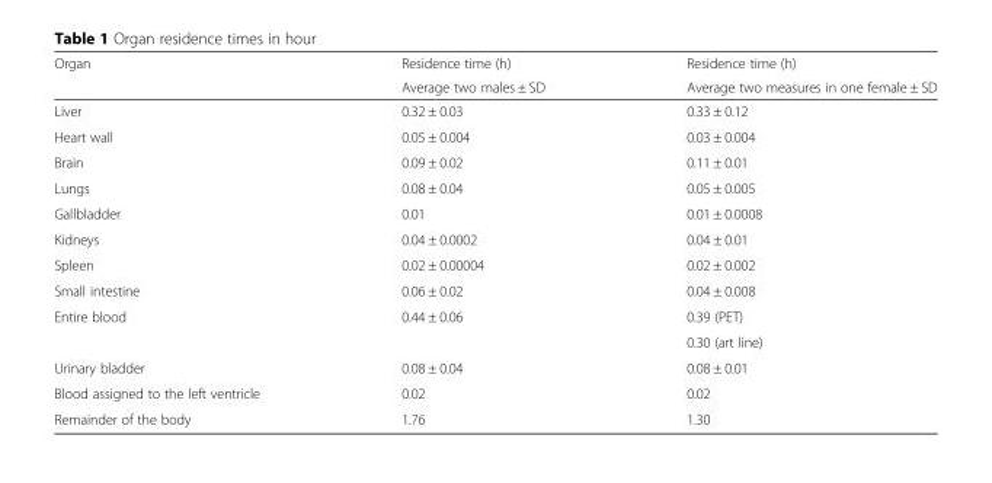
<table><thead><tr><td rowspan="2">Organ</td><td rowspan="2">Residence time (h) Average two males ± SD</td><td rowspan="2">Residence time (h) Average two measures in one female ± SD</td></tr><tr></tr></thead><tbody><tr><td>Liver</td><td>0.32 ± 0.03</td><td>0.33 ± 0.12</td></tr><tr><td>Heart wall</td><td>0.05 ± 0.004</td><td>0.03 ± 0.004</td></tr><tr><td>Brain</td><td>0.09 ± 0.02</td><td>0.11 ± 0.01</td></tr><tr><td>Lungs</td><td>0.08 ± 0.04</td><td>0.05 ± 0.005</td></tr><tr><td>Gallbladder</td><td>0.01</td><td>0.01 ± 0.0008</td></tr><tr><td>Kidneys</td><td>0.04 ± 0.0002</td><td>0.04 ± 0.01</td></tr><tr><td>Spleen</td><td>0.02 ± 0.00004</td><td>0.02 ± 0.002</td></tr><tr><td>Small intestine</td><td>0.06 ± 0.02</td><td>0.04 ± 0.008</td></tr><tr><td rowspan="2">Entire blood</td><td rowspan="2">0.44 ± 0.06</td><td>0.39 (PET)</td></tr><tr><td>0.30 (art line)</td></tr><tr><td>Urinary bladder</td><td>0.08 ± 0.04</td><td>0.08 ± 0.01</td></tr><tr><td>Blood assigned to the left ventricle</td><td>0.02</td><td>0.02</td></tr><tr><td>Remainder of the body</td><td>1.76</td><td>1.30</td></tr></tbody></table>